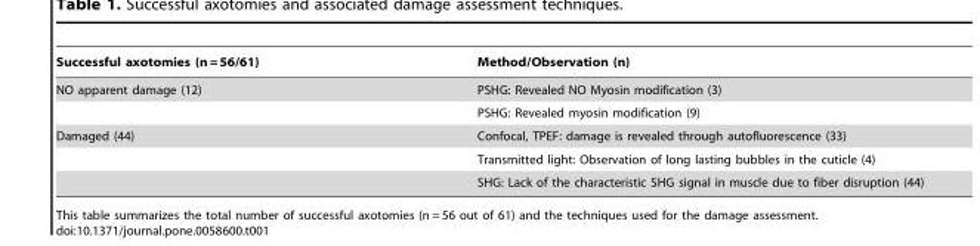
<table><thead><tr><td>Successful axotomies (n = 56/61)</td><td>Method/Observation (n)</td></tr></thead><tbody><tr><td rowspan="2">NO apparent damage (12)</td><td>PSHG: Revealed NO Myosin modification (3)</td></tr><tr><td>PSHG: Revealed myosin modification (9)</td></tr><tr><td rowspan="3">Damaged (44)</td><td>Confocal, TPEF: damage is revealed through autofluorescence (33)</td></tr><tr><td>Transmitted light: Observation of long lasting bubbles in the cuticle (4)</td></tr><tr><td>SHG: Lack of the characteristic SHG signal in muscle due to fiber disruption (44)</td></tr></tbody></table>